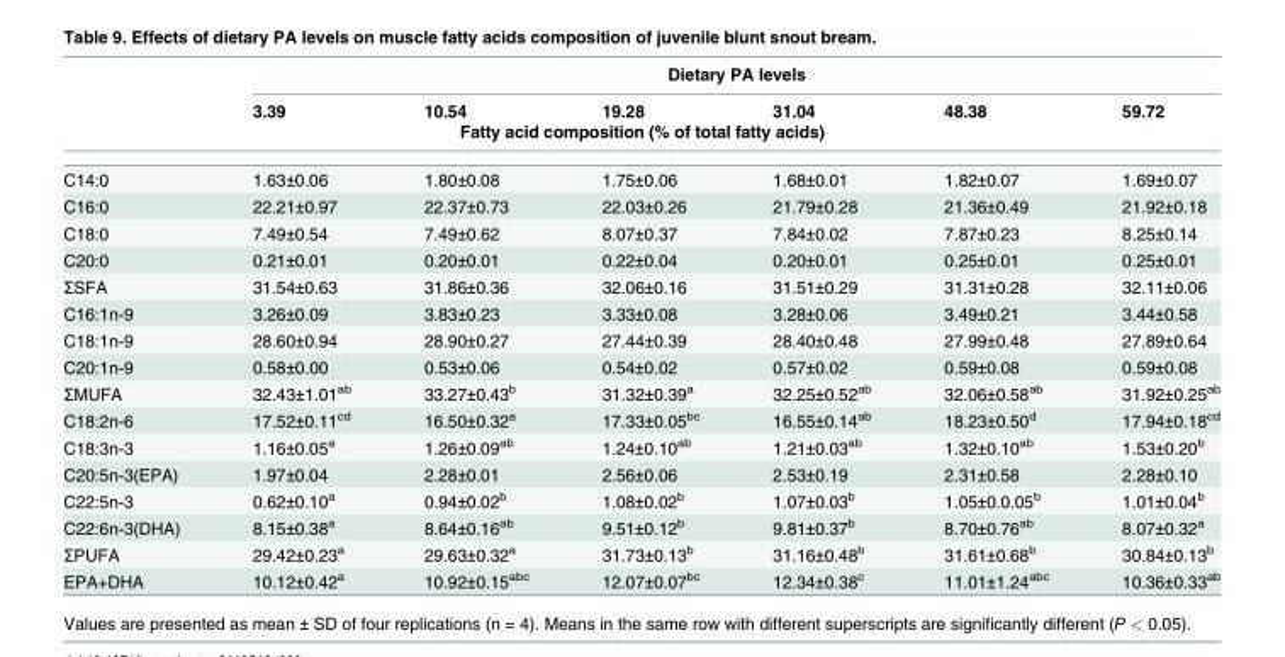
<table><thead><tr><td rowspan="2"></td><td colspan="6">Dietary PA levels</td></tr><tr><td>3.39</td><td>10.54</td><td>19.28</td><td>31.04</td><td>48.38</td><td>59.72</td></tr><tr><td colspan="7">Fatty acid composition (% of total fatty acids)</td></tr></thead><tbody><tr><td>C14:0</td><td>1.63±0.06</td><td>1.80±0.08</td><td>1.75±0.06</td><td>1.68±0.01</td><td>1.82±0.07</td><td>1.69±0.07</td></tr><tr><td>C16:0</td><td>22.21±0.97</td><td>22.37±0.73</td><td>22.03±0.26</td><td>21.79±0.28</td><td>21.36±0.49</td><td>21.92±0.18</td></tr><tr><td>C18:0</td><td>7.49±0.54</td><td>7.49±0.62</td><td>8.07±0.37</td><td>7.84±0.02</td><td>7.87±0.23</td><td>8.25±0.14</td></tr><tr><td>C20:0</td><td>0.21±0.01</td><td>0.20±0.01</td><td>0.22±0.04</td><td>0.20±0.01</td><td>0.25±0.01</td><td>0.25±0.01</td></tr><tr><td>ΣSFA</td><td>31.54±0.63</td><td>31.86±0.36</td><td>32.06±0.16</td><td>31.51±0.29</td><td>31.31±0.28</td><td>32.11±0.06</td></tr><tr><td>C16:1n-9</td><td>3.26±0.09</td><td>3.83±0.23</td><td>3.33±0.08</td><td>3.28±0.06</td><td>3.49±0.21</td><td>3.44±0.58</td></tr><tr><td>C18:1n-9</td><td>28.60±0.94</td><td>28.90±0.27</td><td>27.44±0.39</td><td>28.40±0.48</td><td>27.99±0.48</td><td>27.89±0.64</td></tr><tr><td>C20:1n-9</td><td>0.58±0.00</td><td>0.53±0.06</td><td>0.54±0.02</td><td>0.57±0.02</td><td>0.59±0.08</td><td>0.59±0.08</td></tr><tr><td>ΣMUFA</td><td>32.43±1.01<sup>ab</sup></td><td>33.27±0.43<sup>b</sup></td><td>31.32±0.39<sup>a</sup></td><td>32.25±0.52<sup>ab</sup></td><td>32.06±0.58<sup>ab</sup></td><td>31.92±0.25<sup>ab</sup></td></tr><tr><td>C18:2n-6</td><td>17.52±0.11<sup>cd</sup></td><td>16.50±0.32<sup>a</sup></td><td>17.33±0.05<sup>bc</sup></td><td>16.55±0.14<sup>ab</sup></td><td>18.23±0.50<sup>d</sup></td><td>17.94±0.18<sup>cd</sup></td></tr><tr><td>C18:3n-3</td><td>1.16±0.05<sup>a</sup></td><td>1.26±0.09<sup>ab</sup></td><td>1.24±0.10<sup>ab</sup></td><td>1.21±0.03<sup>ab</sup></td><td>1.32±0.10<sup>ab</sup></td><td>1.53±0.20<sup>b</sup></td></tr><tr><td>C20:5n-3(EPA)</td><td>1.97±0.04</td><td>2.28±0.01</td><td>2.56±0.06</td><td>2.53±0.19</td><td>2.31±0.58</td><td>2.28±0.10</td></tr><tr><td>C22:5n-3</td><td>0.62±0.10<sup>a</sup></td><td>0.94±0.02<sup>b</sup></td><td>1.08±0.02<sup>b</sup></td><td>1.07±0.03<sup>b</sup></td><td>1.05±0.0.05<sup>b</sup></td><td>1.01±0.04<sup>b</sup></td></tr><tr><td>C22:6n-3(DHA)</td><td>8.15±0.38<sup>a</sup></td><td>8.64±0.16<sup>ab</sup></td><td>9.51±0.12<sup>b</sup></td><td>9.81±0.37<sup>b</sup></td><td>8.70±0.76<sup>ab</sup></td><td>8.07±0.32<sup>a</sup></td></tr><tr><td>ΣPUFA</td><td>29.42±0.23<sup>a</sup></td><td>29.63±0.32<sup>a</sup></td><td>31.73±0.13<sup>b</sup></td><td>31.16±0.48<sup>b</sup></td><td>31.61±0.68<sup>b</sup></td><td>30.84±0.13<sup>b</sup></td></tr><tr><td>EPA+DHA</td><td>10.12±0.42<sup>a</sup></td><td>10.92±0.15<sup>abc</sup></td><td>12.07±0.07<sup>bc</sup></td><td>12.34±0.38<sup>c</sup></td><td>11.01±1.24<sup>abc</sup></td><td>10.36±0.33<sup>ab</sup></td></tr></tbody></table>